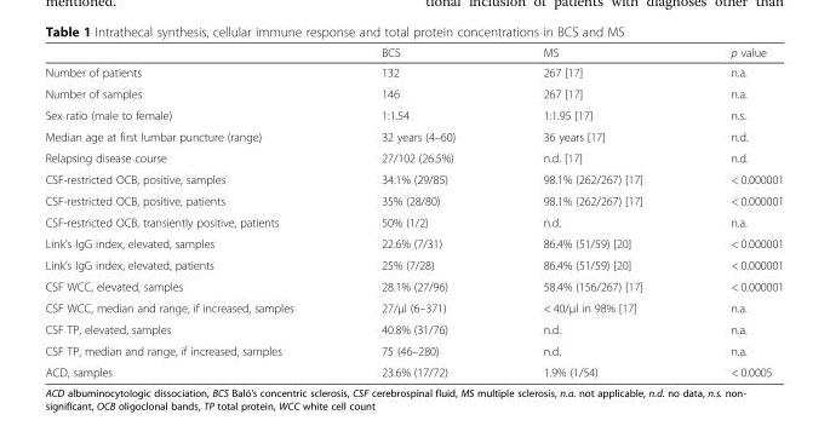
<table><thead><tr><td></td><td>BCS</td><td>MS</td><td>p value</td></tr></thead><tbody><tr><td>Number of patients</td><td>132</td><td>267 [17]</td><td>n.a.</td></tr><tr><td>Number of samples</td><td>146</td><td>267 [17]</td><td>n.a.</td></tr><tr><td>Sex ratio (male to female)</td><td>1:1.54</td><td>1:1.95 [17]</td><td>n.s.</td></tr><tr><td>Median age at first lumbar puncture (range)</td><td>32 years (4–60)</td><td>36 years [17]</td><td>n.d.</td></tr><tr><td>Relapsing disease course</td><td>27/102 (26.5%)</td><td>n.d. [17]</td><td>n.d.</td></tr><tr><td>CSF-restricted OCB, positive, samples</td><td>34.1% (29/85)</td><td>98.1% (262/267) [17]</td><td>&lt; 0.000001</td></tr><tr><td>CSF-restricted OCB, positive, patients</td><td>35% (28/80)</td><td>98.1% (262/267) [17]</td><td>&lt; 0.000001</td></tr><tr><td>CSF-restricted OCB, transiently positive, patients</td><td>50% (1/2)</td><td>n.d.</td><td>n.a.</td></tr><tr><td>Link’s IgG index, elevated, samples</td><td>22.6% (7/31)</td><td>86.4% (51/59) [20]</td><td>&lt; 0.000001</td></tr><tr><td>Link’s IgG index, elevated, patients</td><td>25% (7/28)</td><td>86.4% (51/59) [20]</td><td>&lt; 0.000001</td></tr><tr><td>CSF WCC, elevated, samples</td><td>28.1% (27/96)</td><td>58.4% (156/267) [17]</td><td>&lt; 0.000001</td></tr><tr><td>CSF WCC, median and range, if increased, samples</td><td>27/μl (6–371)</td><td>&lt; 40/μl in 98% [17]</td><td>n.a.</td></tr><tr><td>CSF TP, elevated, samples</td><td>40.8% (31/76)</td><td>n.d.</td><td>n.a.</td></tr><tr><td>CSF TP, median and range, if increased, samples</td><td>75 (46–280)</td><td>n.d.</td><td>n.a.</td></tr><tr><td>ACD, samples</td><td>23.6% (17/72)</td><td>1.9% (1/54)</td><td>&lt; 0.0005</td></tr></tbody></table>